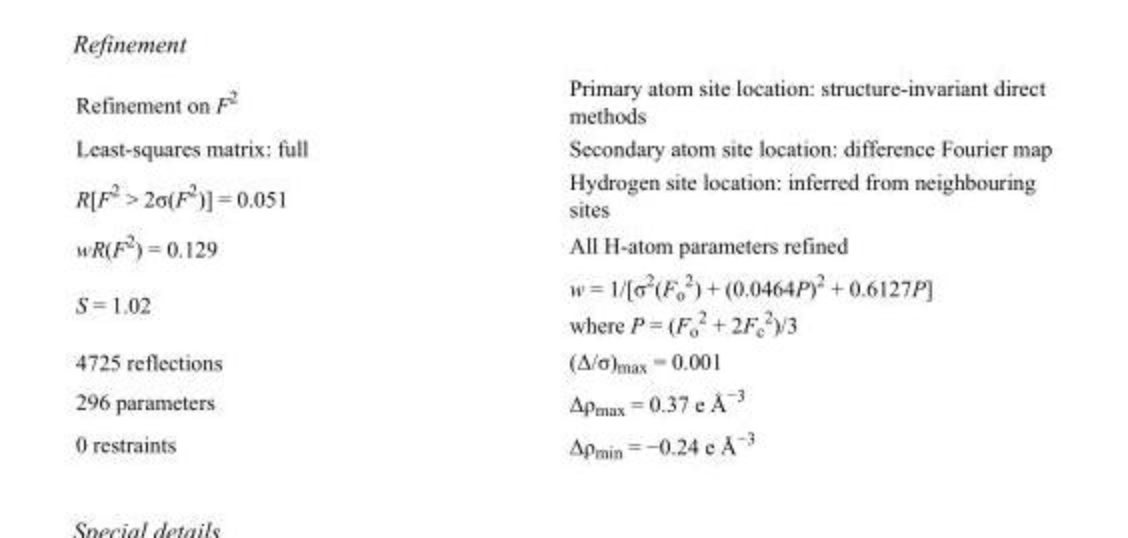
<table><tbody><tr><td>Refinement on F<sup>2</sup></td><td>Primary atom site location: structure-invariant direct methods</td></tr><tr><td>Least-squares matrix: full</td><td>Secondary atom site location: difference Fourier map</td></tr><tr><td>R[F<sup>2</sup> &gt; 2σ(F<sup>2</sup>)] = 0.051</td><td>Hydrogen site location: inferred from neighbouring sites</td></tr><tr><td>wR(F<sup>2</sup>) = 0.129</td><td>All H-atom parameters refined</td></tr><tr><td>S = 1.02</td><td>w = 1/[σ<sup>2</sup>(F<sub>o</sub> <sup>2</sup>) + (0.0464P)<sup>2</sup> + 0.6127P] where P = (F<sub>o</sub> <sup>2</sup> + 2F<sub>c</sub> <sup>2</sup>)/3</td></tr><tr><td>4725 reflections</td><td>(Δ/σ)<sub>max</sub> = 0.001</td></tr><tr><td>296 parameters</td><td>Δρ<sub>max</sub> = 0.37 e Å<sup>−3</sup></td></tr><tr><td>0 restraints</td><td>Δρ<sub>min</sub> = −0.24 e Å<sup>−3</sup></td></tr></tbody></table>